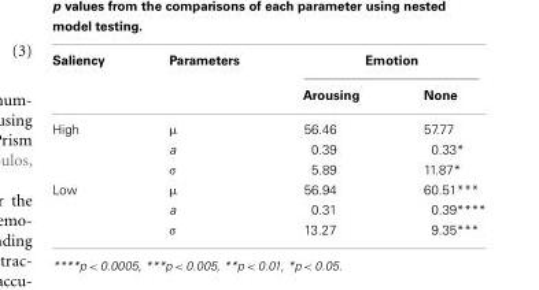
<table><thead><tr><td rowspan="2">Saliency</td><td rowspan="2">Parameters</td><td colspan="2">Emotion</td></tr><tr><td>Arousing</td><td>None</td></tr></thead><tbody><tr><td rowspan="3">High</td><td>µ</td><td>56.46</td><td>57.77</td></tr><tr><td>a</td><td>0.39</td><td>0.33*</td></tr><tr><td>σ</td><td>5.89</td><td>11.87*</td></tr><tr><td rowspan="3">Low</td><td>µ</td><td>56.94</td><td>60.51***</td></tr><tr><td>a</td><td>0.31</td><td>0.39****</td></tr><tr><td>σ</td><td>13.27</td><td>9.35***</td></tr></tbody></table>